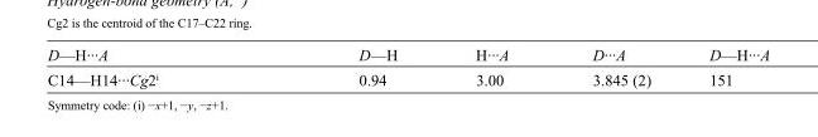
<table><tbody><tr><td>D—H···A</td><td>D—H</td><td>H···A</td><td>D···A</td><td>D—H···A</td></tr><tr><td>C14—H14···Cg2<sup>i</sup></td><td>0.94</td><td>3.00</td><td>3.845 (2)</td><td>151</td></tr></tbody></table>